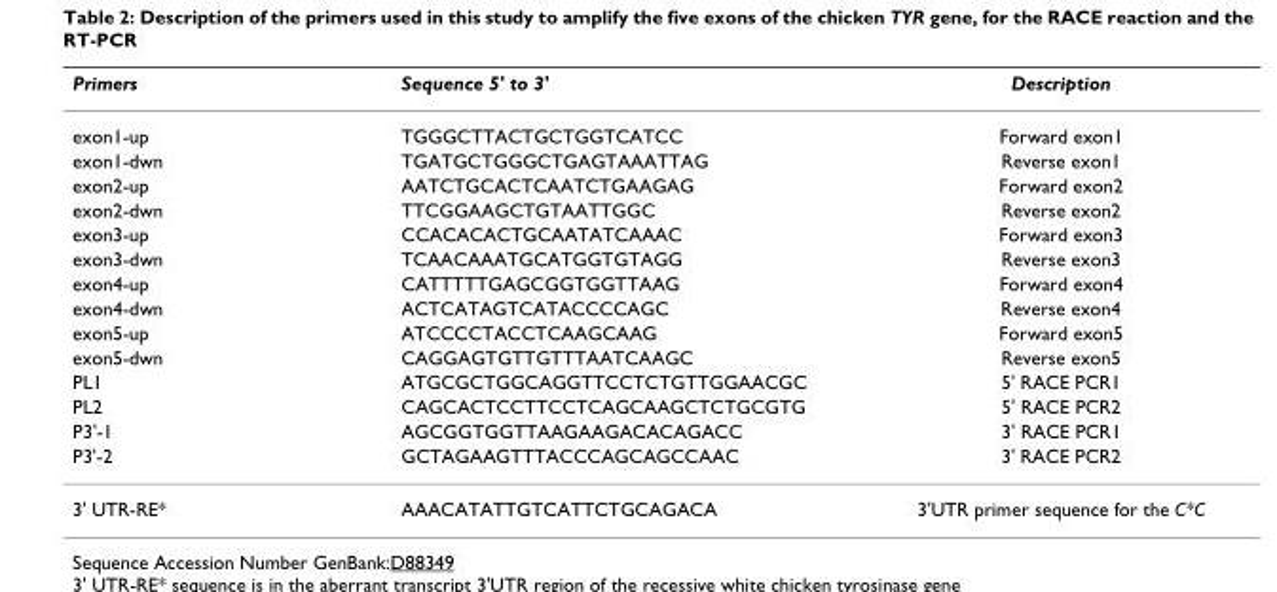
<table><thead><tr><td>Primers</td><td>Sequence 5&#x27; to 3&#x27;</td><td>Description</td></tr></thead><tbody><tr><td>exon1-up</td><td>TGGGCTTACTGCTGGTCATCC</td><td>Forward exon1</td></tr><tr><td>exon1-dwn</td><td>TGATGCTGGGCTGAGTAAATTAG</td><td>Reverse exon1</td></tr><tr><td>exon2-up</td><td>AATCTGCACTCAATCTGAAGAG</td><td>Forward exon2</td></tr><tr><td>exon2-dwn</td><td>TTCGGAAGCTGTAATTGGC</td><td>Reverse exon2</td></tr><tr><td>exon3-up</td><td>CCACACACTGCAATATCAAAC</td><td>Forward exon3</td></tr><tr><td>exon3-dwn</td><td>TCAACAAATGCATGGTGTAGG</td><td>Reverse exon3</td></tr><tr><td>exon4-up</td><td>CATTTTTGAGCGGTGGTTAAG</td><td>Forward exon4</td></tr><tr><td>exon4-dwn</td><td>ACTCATAGTCATACCCCAGC</td><td>Reverse exon4</td></tr><tr><td>exon5-up</td><td>ATCCCCTACCTCAAGCAAG</td><td>Forward exon5</td></tr><tr><td>exon5-dwn</td><td>CAGGAGTGTTGTTTAATCAAGC</td><td>Reverse exon5</td></tr><tr><td>PL1</td><td>ATGCGCTGGCAGGTTCCTCTGTTGGAACGC</td><td>5&#x27; RACE PCR1</td></tr><tr><td>PL2</td><td>CAGCACTCCTTCCTCAGCAAGCTCTGCGTG</td><td>5&#x27; RACE PCR2</td></tr><tr><td>P3&#x27;-1</td><td>AGCGGTGGTTAAGAAGACACAGACC</td><td>3&#x27; RACE PCR1</td></tr><tr><td>P3&#x27;-2</td><td>GCTAGAAGTTTACCCAGCAGCCAAC</td><td>3&#x27; RACE PCR2</td></tr><tr><td>3&#x27; UTR-RE*</td><td>AAACATATTGTCATTCTGCAGACA</td><td>3&#x27;UTR primer sequence for the C*C</td></tr></tbody></table>